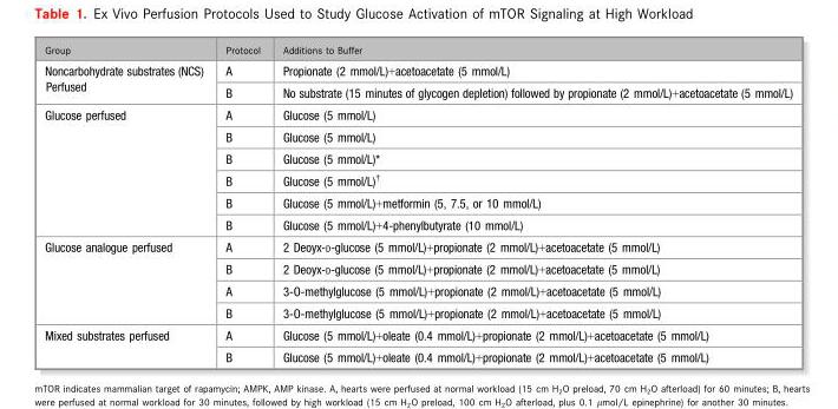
<table><thead><tr><td>Group</td><td>Protocol</td><td>Additions to Buffer</td></tr></thead><tbody><tr><td rowspan="2">Noncarbohydrate substrates (NCS) Perfused</td><td>A</td><td>Propionate (2 mmol/L)+acetoacetate (5 mmol/L)</td></tr><tr><td>B</td><td>No substrate (15 minutes of glycogen depletion) followed by propionate (2 mmol/L)+acetoacetate (5 mmol/L)</td></tr><tr><td rowspan="6">Glucose perfused</td><td>A</td><td>Glucose (5 mmol/L)</td></tr><tr><td>B</td><td>Glucose (5 mmol/L)</td></tr><tr><td>B</td><td>Glucose (5 mmol/L)*</td></tr><tr><td>B</td><td>Glucose (5 mmol/L)†</td></tr><tr><td>B</td><td>Glucose (5 mmol/L)+metformin (5, 7.5, or 10 mmol/L)</td></tr><tr><td>B</td><td>Glucose (5 mmol/L)+4-phenylbutyrate (10 mmol/L)</td></tr><tr><td rowspan="4">Glucose analogue perfused</td><td>A</td><td>2 Deoyx-D-glucose (5 mmol/L)+propionate (2 mmol/L)+acetoacetate (5 mmol/L)</td></tr><tr><td>B</td><td>2 Deoyx-D-glucose (5 mmol/L)+propionate (2 mmol/L)+acetoacetate (5 mmol/L)</td></tr><tr><td>A</td><td>3-O-methylglucose (5 mmol/L)+propionate (2 mmol/L)+acetoacetate (5 mmol/L)</td></tr><tr><td>B</td><td>3-O-methylglucose (5 mmol/L)+propionate (2 mmol/L)+acetoacetate (5 mmol/L)</td></tr><tr><td rowspan="2">Mixed substrates perfused</td><td>A</td><td>Glucose (5 mmol/L)+oleate (0.4 mmol/L)+propionate (2 mmol/L)+acetoacetate (5 mmol/L)</td></tr><tr><td>B</td><td>Glucose (5 mmol/L)+oleate (0.4 mmol/L)+propionate (2 mmol/L)+acetoacetate (5 mmol/L)</td></tr></tbody></table>